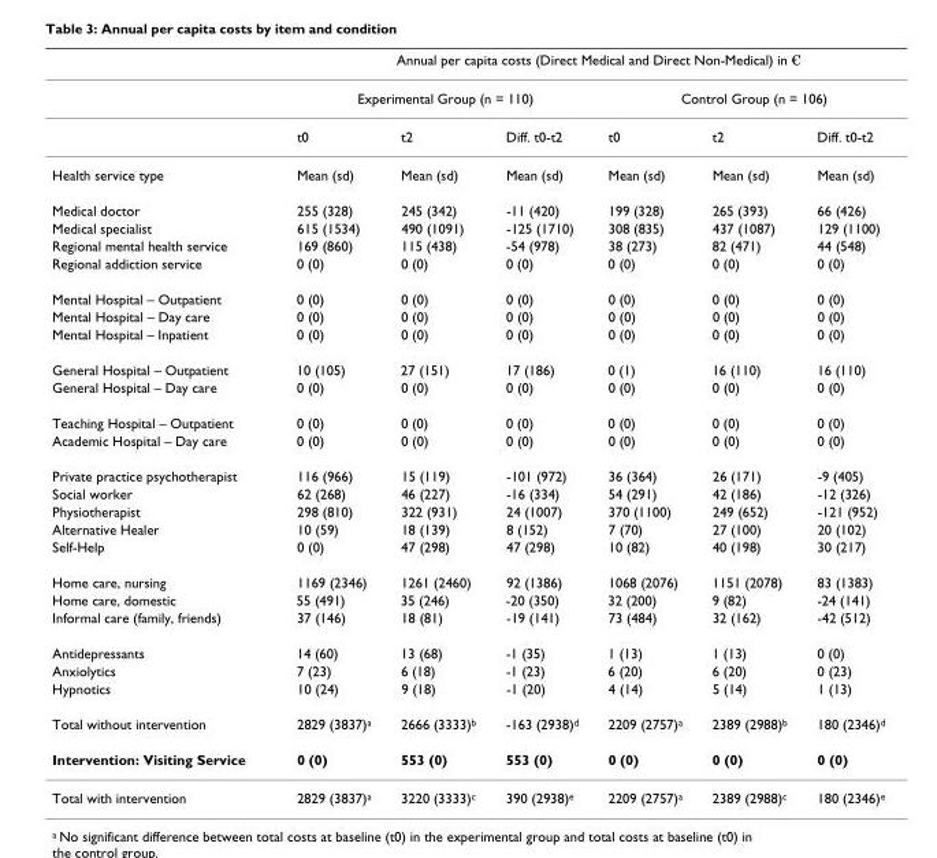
<table><thead><tr><td rowspan="3"></td><td colspan="6">Annual per capita costs (Direct Medical and Direct Non-Medical) in €</td></tr><tr><td colspan="3">Experimental Group (n = 110)</td><td colspan="3">Control Group (n = 106)</td></tr><tr><td>t0</td><td>t2</td><td>Diff. t0-t2</td><td>t0</td><td>t2</td><td>Diff. t0-t2</td></tr></thead><tbody><tr><td>Health service type</td><td>Mean (sd)</td><td>Mean (sd)</td><td>Mean (sd)</td><td>Mean (sd)</td><td>Mean (sd)</td><td>Mean (sd)</td></tr><tr><td>Medical doctor</td><td>255 (328)</td><td>245 (342)</td><td>-11 (420)</td><td>199 (328)</td><td>265 (393)</td><td>66 (426)</td></tr><tr><td>Medical specialist</td><td>615 (1534)</td><td>490 (1091)</td><td>-125 (1710)</td><td>308 (835)</td><td>437 (1087)</td><td>129 (1100)</td></tr><tr><td>Regional mental health service</td><td>169 (860)</td><td>115 (438)</td><td>-54 (978)</td><td>38 (273)</td><td>82 (471)</td><td>44 (548)</td></tr><tr><td>Regional addiction service</td><td>0 (0)</td><td>0 (0)</td><td>0 (0)</td><td>0 (0)</td><td>0 (0)</td><td>0 (0)</td></tr><tr><td>Mental Hospital – Outpatient</td><td>0 (0)</td><td>0 (0)</td><td>0 (0)</td><td>0 (0)</td><td>0 (0)</td><td>0 (0)</td></tr><tr><td>Mental Hospital – Day care</td><td>0 (0)</td><td>0 (0)</td><td>0 (0)</td><td>0 (0)</td><td>0 (0)</td><td>0 (0)</td></tr><tr><td>Mental Hospital – Inpatient</td><td>0 (0)</td><td>0 (0)</td><td>0 (0)</td><td>0 (0)</td><td>0 (0)</td><td>0 (0)</td></tr><tr><td>General Hospital – Outpatient</td><td>10 (105)</td><td>27 (151)</td><td>17 (186)</td><td>0 (1)</td><td>16 (110)</td><td>16 (110)</td></tr><tr><td>General Hospital – Day care</td><td>0 (0)</td><td>0 (0)</td><td>0 (0)</td><td>0 (0)</td><td>0 (0)</td><td>0 (0)</td></tr><tr><td>Teaching Hospital – Outpatient</td><td>0 (0)</td><td>0 (0)</td><td>0 (0)</td><td>0 (0)</td><td>0 (0)</td><td>0 (0)</td></tr><tr><td>Academic Hospital – Day care</td><td>0 (0)</td><td>0 (0)</td><td>0 (0)</td><td>0 (0)</td><td>0 (0)</td><td>0 (0)</td></tr><tr><td>Private practice psychotherapist</td><td>116 (966)</td><td>15 (119)</td><td>-101 (972)</td><td>36 (364)</td><td>26 (171)</td><td>-9 (405)</td></tr><tr><td>Social worker</td><td>62 (268)</td><td>46 (227)</td><td>-16 (334)</td><td>54 (291)</td><td>42 (186)</td><td>-12 (326)</td></tr><tr><td>Physiotherapist</td><td>298 (810)</td><td>322 (931)</td><td>24 (1007)</td><td>370 (1100)</td><td>249 (652)</td><td>-121 (952)</td></tr><tr><td>Alternative Healer</td><td>10 (59)</td><td>18 (139)</td><td>8 (152)</td><td>7 (70)</td><td>27 (100)</td><td>20 (102)</td></tr><tr><td>Self-Help</td><td>0 (0)</td><td>47 (298)</td><td>47 (298)</td><td>10 (82)</td><td>40 (198)</td><td>30 (217)</td></tr><tr><td>Home care, nursing</td><td>1169 (2346)</td><td>1261 (2460)</td><td>92 (1386)</td><td>1068 (2076)</td><td>1151 (2078)</td><td>83 (1383)</td></tr><tr><td>Home care, domestic</td><td>55 (491)</td><td>35 (246)</td><td>-20 (350)</td><td>32 (200)</td><td>9 (82)</td><td>-24 (141)</td></tr><tr><td>Informal care (family, friends)</td><td>37 (146)</td><td>18 (81)</td><td>-19 (141)</td><td>73 (484)</td><td>32 (162)</td><td>-42 (512)</td></tr><tr><td>Antidepressants</td><td>14 (60)</td><td>13 (68)</td><td>-1 (35)</td><td>1 (13)</td><td>1 (13)</td><td>0 (0)</td></tr><tr><td>Anxiolytics</td><td>7 (23)</td><td>6 (18)</td><td>-1 (23)</td><td>6 (20)</td><td>6 (20)</td><td>0 (23)</td></tr><tr><td>Hypnotics</td><td>10 (24)</td><td>9 (18)</td><td>-1 (20)</td><td>4 (14)</td><td>5 (14)</td><td>1 (13)</td></tr><tr><td>Total without intervention</td><td>2829 (3837)<sup>a</sup></td><td>2666 (3333)<sup>b</sup></td><td>-163 (2938)<sup>d</sup></td><td>2209 (2757)<sup>a</sup></td><td>2389 (2988)<sup>b</sup></td><td>180 (2346)<sup>d</sup></td></tr><tr><td>Intervention: Visiting Service</td><td>0 (0)</td><td>553 (0)</td><td>553 (0)</td><td>0 (0)</td><td>0 (0)</td><td>0 (0)</td></tr><tr><td>Total with intervention</td><td>2829 (3837)<sup>a</sup></td><td>3220 (3333)<sup>c</sup></td><td>390 (2938)<sup>e</sup></td><td>2209 (2757)<sup>a</sup></td><td>2389 (2988)<sup>c</sup></td><td>180 (2346)<sup>e</sup></td></tr></tbody></table>